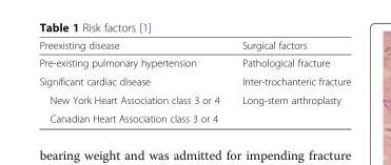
<table><thead><tr><td>Preexisting disease</td><td>Surgical factors</td></tr></thead><tbody><tr><td>Pre-existing pulmonary hypertension</td><td>Pathological fracture</td></tr><tr><td>Significant cardiac disease</td><td>Inter-trochanteric fracture</td></tr><tr><td>New York Heart Association class 3 or 4</td><td>Long-stem arthroplasty</td></tr><tr><td>Canadian Heart Association class 3 or 4</td><td></td></tr></tbody></table>